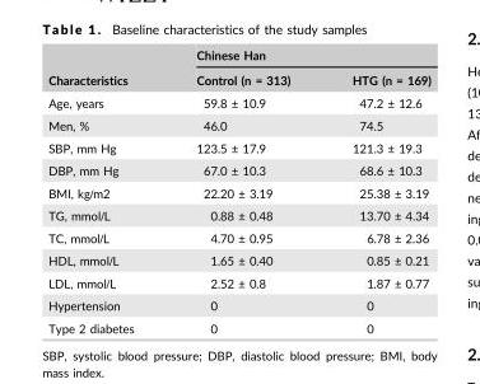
<table><thead><tr><td rowspan="2">Characteristics</td><td colspan="2">Chinese Han</td></tr><tr><td>Control (n = 313)</td><td>HTG (n = 169)</td></tr></thead><tbody><tr><td>Age, years</td><td>59.8 ± 10.9</td><td>47.2 ± 12.6</td></tr><tr><td>Men, %</td><td>46.0</td><td>74.5</td></tr><tr><td>SBP, mm Hg</td><td>123.5 ± 17.9</td><td>121.3 ± 19.3</td></tr><tr><td>DBP, mm Hg</td><td>67.0 ± 10.3</td><td>68.6 ± 10.3</td></tr><tr><td>BMI, kg/m2</td><td>22.20 ± 3.19</td><td>25.38 ± 3.19</td></tr><tr><td>TG, mmol/L</td><td>0.88 ± 0.48</td><td>13.70 ± 4.34</td></tr><tr><td>TC, mmol/L</td><td>4.70 ± 0.95</td><td>6.78 ± 2.36</td></tr><tr><td>HDL, mmol/L</td><td>1.65 ± 0.40</td><td>0.85 ± 0.21</td></tr><tr><td>LDL, mmol/L</td><td>2.52 ± 0.8</td><td>1.87 ± 0.77</td></tr><tr><td>Hypertension</td><td>0</td><td>0</td></tr><tr><td>Type 2 diabetes</td><td>0</td><td>0</td></tr></tbody></table>